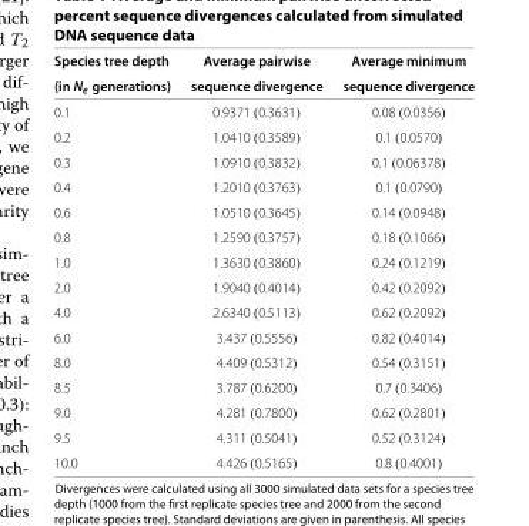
<table><thead><tr><td rowspan="2">Species tree depth (in N<sub>e</sub> generations)</td><td rowspan="2">Average pairwise sequence divergence</td><td rowspan="2">Average minimum sequence divergence</td></tr><tr></tr></thead><tbody><tr><td>0.1</td><td>0.9371 (0.3631)</td><td>0.08 (0.0356)</td></tr><tr><td>0.2</td><td>1.0410 (0.3589)</td><td>0.1 (0.0570)</td></tr><tr><td>0.3</td><td>1.0910 (0.3832)</td><td>0.1 (0.06378)</td></tr><tr><td>0.4</td><td>1.2010 (0.3763)</td><td>0.1 (0.0790)</td></tr><tr><td>0.6</td><td>1.0510 (0.3645)</td><td>0.14 (0.0948)</td></tr><tr><td>0.8</td><td>1.2590 (0.3757)</td><td>0.18 (0.1066)</td></tr><tr><td>1.0</td><td>1.3630 (0.3860)</td><td>0.24 (0.1219)</td></tr><tr><td>2.0</td><td>1.9040 (0.4014)</td><td>0.42 (0.2092)</td></tr><tr><td>4.0</td><td>2.6340 (0.5113)</td><td>0.62 (0.2092)</td></tr><tr><td>6.0</td><td>3.437 (0.5556)</td><td>0.82 (0.4014)</td></tr><tr><td>8.0</td><td>4.409 (0.5312)</td><td>0.54 (0.3151)</td></tr><tr><td>8.5</td><td>3.787 (0.6200)</td><td>0.7 (0.3406)</td></tr><tr><td>9.0</td><td>4.281 (0.7800)</td><td>0.62 (0.2801)</td></tr><tr><td>9.5</td><td>4.311 (0.5041)</td><td>0.52 (0.3124)</td></tr><tr><td>10.0</td><td>4.426 (0.5165)</td><td>0.8 (0.4001)</td></tr></tbody></table>